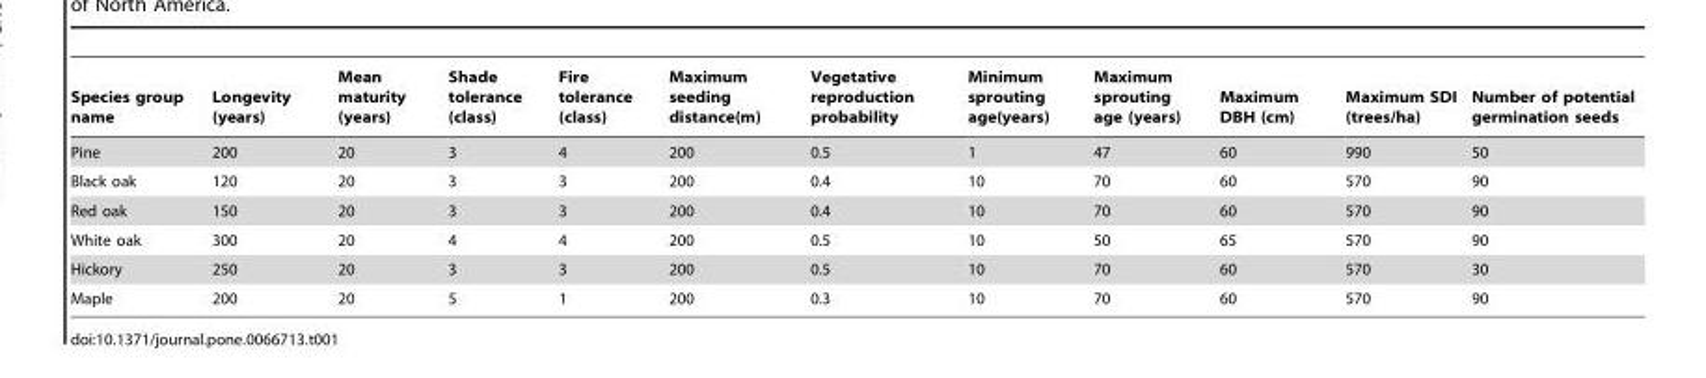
<table><thead><tr><td>Species group name</td><td>Longevity (years)</td><td>Mean maturity (years)</td><td>Shade tolerance (class)</td><td>Fire tolerance (class)</td><td>Maximum seeding distance(m)</td><td>Vegetative reproduction probability</td><td>Minimum sprouting age(years)</td><td>Maximum sprouting age (years)</td><td>Maximum DBH (cm)</td><td>Maximum SDI (trees/ha)</td><td>Number of potential germination seeds</td></tr></thead><tbody><tr><td>Pine</td><td>200</td><td>20</td><td>3</td><td>4</td><td>200</td><td>0.5</td><td>1</td><td>47</td><td>60</td><td>990</td><td>50</td></tr><tr><td>Black oak</td><td>120</td><td>20</td><td>3</td><td>3</td><td>200</td><td>0.4</td><td>10</td><td>70</td><td>60</td><td>570</td><td>90</td></tr><tr><td>Red oak</td><td>150</td><td>20</td><td>3</td><td>3</td><td>200</td><td>0.4</td><td>10</td><td>70</td><td>60</td><td>570</td><td>90</td></tr><tr><td>White oak</td><td>300</td><td>20</td><td>4</td><td>4</td><td>200</td><td>0.5</td><td>10</td><td>50</td><td>65</td><td>570</td><td>90</td></tr><tr><td>Hickory</td><td>250</td><td>20</td><td>3</td><td>3</td><td>200</td><td>0.5</td><td>10</td><td>70</td><td>60</td><td>570</td><td>30</td></tr><tr><td>Maple</td><td>200</td><td>20</td><td>5</td><td>1</td><td>200</td><td>0.3</td><td>10</td><td>70</td><td>60</td><td>570</td><td>90</td></tr></tbody></table>